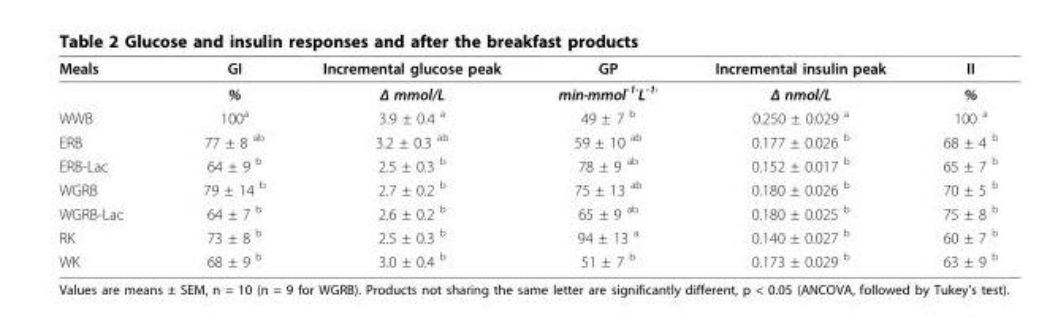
<table><thead><tr><td>Meals</td><td>GI</td><td>Incremental glucose peak</td><td>GP</td><td>Incremental insulin peak</td><td>II</td></tr></thead><tbody><tr><td></td><td>%</td><td>Δ mmol/L</td><td>min·mmol<sup>-1·</sup>L<sup>-1·</sup></td><td>Δ nmol/L</td><td>%</td></tr><tr><td>WWB</td><td>100<sup>a</sup></td><td>3.9 ± 0.4 <sup>a</sup></td><td>49 ± 7 <sup>b</sup></td><td>0.250 ± 0.029 <sup>a</sup></td><td>100 <sup>a</sup></td></tr><tr><td>ERB</td><td>77 ± 8 <sup>ab</sup></td><td>3.2 ± 0.3 <sup>ab</sup></td><td>59 ± 10 <sup>ab</sup></td><td>0.177 ± 0.026 <sup>b</sup></td><td>68 ± 4 <sup>b</sup></td></tr><tr><td>ERB-Lac</td><td>64 ± 9 <sup>b</sup></td><td>2.5 ± 0.3 <sup>b</sup></td><td>78 ± 9 <sup>ab</sup></td><td>0.152 ± 0.017 <sup>b</sup></td><td>65 ± 7 <sup>b</sup></td></tr><tr><td>WGRB</td><td>79 ± 14 <sup>b</sup></td><td>2.7 ± 0.2 <sup>b</sup></td><td>75 ± 13 <sup>ab</sup></td><td>0.180 ± 0.026 <sup>b</sup></td><td>70 ± 5 <sup>b</sup></td></tr><tr><td>WGRB-Lac</td><td>64 ± 7 <sup>b</sup></td><td>2.6 ± 0.2 <sup>b</sup></td><td>65 ± 9 <sup>ab</sup></td><td>0.180 ± 0.025 <sup>b</sup></td><td>75 ± 8 <sup>b</sup></td></tr><tr><td>RK</td><td>73 ± 8 <sup>b</sup></td><td>2.5 ± 0.3 <sup>b</sup></td><td>94 ± 13 <sup>a</sup></td><td>0.140 ± 0.027 <sup>b</sup></td><td>60 ± 7 <sup>b</sup></td></tr><tr><td>WK</td><td>68 ± 9 <sup>b</sup></td><td>3.0 ± 0.4 <sup>b</sup></td><td>51 ± 7 <sup>b</sup></td><td>0.173 ± 0.029 <sup>b</sup></td><td>63 ± 9 <sup>b</sup></td></tr></tbody></table>